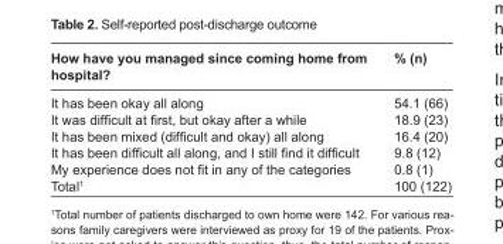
<table><thead><tr><td>How have you managed since coming home from hospital?</td><td>% (n)</td></tr></thead><tbody><tr><td>It has been okay all along</td><td>54.1 (66)</td></tr><tr><td>It was difficult at first, but okay after a while</td><td>18.9 (23)</td></tr><tr><td>It has been mixed (difficult and okay) all along</td><td>16.4 (20)</td></tr><tr><td>It has been difficult all along, and I still find it difficult</td><td>9.8 (12)</td></tr><tr><td>My experience does not fit in any of the categories</td><td>0.8 (1)</td></tr><tr><td>Total<sup>1</sup></td><td>100 (122)</td></tr></tbody></table>